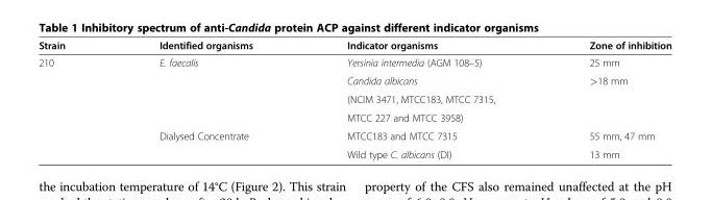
<table><thead><tr><td>Strain</td><td>Identified organisms</td><td>Indicator organisms</td><td>Zone of inhibition</td></tr></thead><tbody><tr><td rowspan="6">210</td><td>E. faecalis</td><td>Yersinia intermedia (AGM 108–5)</td><td>25 mm</td></tr><tr><td rowspan="3"></td><td>Candida albicans</td><td rowspan="3">&gt;18 mm</td></tr><tr><td>(NCIM 3471, MTCC183, MTCC 7315,</td></tr><tr><td>MTCC 227 and MTCC 3958)</td></tr><tr><td>Dialysed Concentrate</td><td>MTCC183 and MTCC 7315</td><td>55 mm, 47 mm</td></tr><tr><td></td><td>Wild type C. albicans (DI)</td><td>13 mm</td></tr></tbody></table>